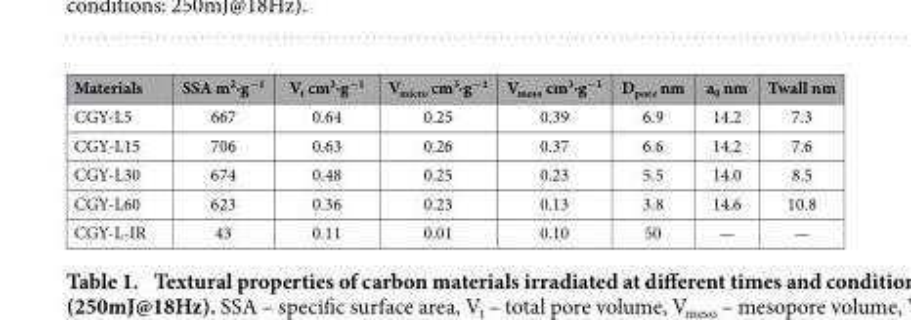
<table><thead><tr><td>Materials</td><td>SSA m<sup>2</sup>∙g<sup>−1</sup></td><td>V<sub>t</sub> cm<sup>3</sup>∙g<sup>−1</sup></td><td>V<sub>micro</sub> cm<sup>3</sup>∙g<sup>−1</sup></td><td>V<sub>meso</sub> cm<sup>3</sup>∙g<sup>−1</sup></td><td>D<sub>pore</sub> nm</td><td>a<sub>0</sub> nm</td><td>Twall nm</td></tr></thead><tbody><tr><td>CGY-L5</td><td>667</td><td>0.64</td><td>0.25</td><td>0.39</td><td>6.9</td><td>14.2</td><td>7.3</td></tr><tr><td>CGY-L15</td><td>706</td><td>0.63</td><td>0.26</td><td>0.37</td><td>6.6</td><td>14.2</td><td>7.6</td></tr><tr><td>CGY-L30</td><td>674</td><td>0.48</td><td>0.25</td><td>0.23</td><td>5.5</td><td>14.0</td><td>8.5</td></tr><tr><td>CGY-L60</td><td>623</td><td>0.36</td><td>0.23</td><td>0.13</td><td>3.8</td><td>14.6</td><td>10.8</td></tr><tr><td>CGY-L-IR</td><td>43</td><td>0.11</td><td>0.01</td><td>0.10</td><td>50</td><td>—</td><td>—</td></tr></tbody></table>